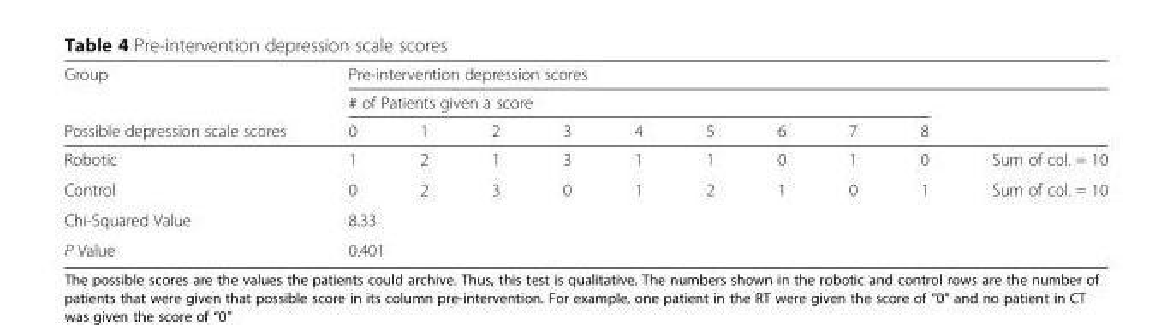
<table><thead><tr><td rowspan="3">Group Possible depression scale scores</td><td colspan="10">Pre-intervention depression scores</td></tr><tr><td colspan="9"># of Patients given a score</td><td rowspan="2"></td></tr><tr><td>0</td><td>1</td><td>2</td><td>3</td><td>4</td><td>5</td><td>6</td><td>7</td><td>8</td></tr></thead><tbody><tr><td>Robotic</td><td>1</td><td>2</td><td>1</td><td>3</td><td>1</td><td>1</td><td>0</td><td>1</td><td>0</td><td>Sum of col. = 10</td></tr><tr><td>Control</td><td>0</td><td>2</td><td>3</td><td>0</td><td>1</td><td>2</td><td>1</td><td>0</td><td>1</td><td>Sum of col. = 10</td></tr><tr><td>Chi-Squared Value</td><td colspan="9">8.33</td><td rowspan="2"></td></tr><tr><td>P Value</td><td colspan="9">0.401</td></tr></tbody></table>